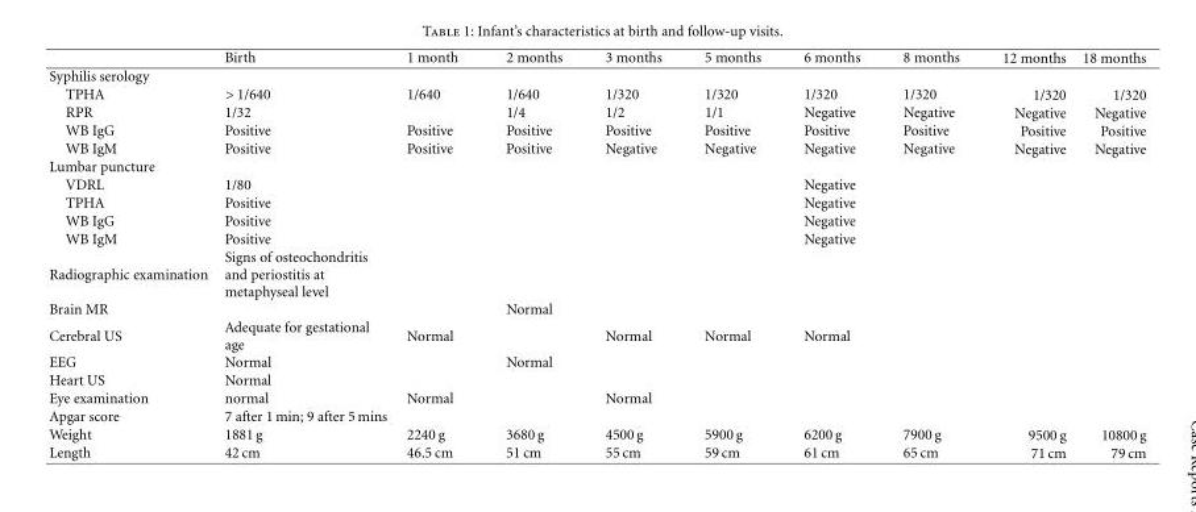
<table><thead><tr><td></td><td>Birth</td><td>1 month</td><td>2 months</td><td>3 months</td><td>5 months</td><td>6 months</td><td>8 months</td><td>12 months</td><td>18 months</td></tr></thead><tbody><tr><td colspan="10">Syphilis serology</td></tr><tr><td>TPHA</td><td>&gt; 1/640</td><td>1/640</td><td>1/640</td><td>1/320</td><td>1/320</td><td>1/320</td><td>1/320</td><td>1/320</td><td>1/320</td></tr><tr><td>RPR</td><td>1/32</td><td></td><td>1/4</td><td>1/2</td><td>1/1</td><td>Negative</td><td>Negative</td><td>Negative</td><td>Negative</td></tr><tr><td>WB IgG</td><td>Positive</td><td>Positive</td><td>Positive</td><td>Positive</td><td>Positive</td><td>Positive</td><td>Positive</td><td>Positive</td><td>Positive</td></tr><tr><td>WB IgM</td><td>Positive</td><td>Positive</td><td>Positive</td><td>Negative</td><td>Negative</td><td>Negative</td><td>Negative</td><td>Negative</td><td>Negative</td></tr><tr><td colspan="10">Lumbar puncture</td></tr><tr><td>VDRL</td><td>1/80</td><td></td><td></td><td></td><td></td><td>Negative</td><td></td><td></td><td></td></tr><tr><td>TPHA</td><td>Positive</td><td></td><td></td><td></td><td></td><td>Negative</td><td></td><td></td><td></td></tr><tr><td>WB IgG</td><td>Positive</td><td></td><td></td><td></td><td></td><td>Negative</td><td></td><td></td><td></td></tr><tr><td>WB IgM</td><td>Positive</td><td></td><td></td><td></td><td></td><td>Negative</td><td></td><td></td><td></td></tr><tr><td>Radiographic examination</td><td>Signs of osteochondritis and periostitis at metaphyseal level</td><td></td><td></td><td></td><td></td><td></td><td></td><td></td><td></td></tr><tr><td>Brain MR</td><td></td><td></td><td>Normal</td><td></td><td></td><td></td><td></td><td></td><td></td></tr><tr><td>Cerebral US</td><td>Adequate for gestational age</td><td>Normal</td><td></td><td>Normal</td><td>Normal</td><td>Normal</td><td></td><td></td><td></td></tr><tr><td>EEG</td><td>Normal</td><td></td><td>Normal</td><td></td><td></td><td></td><td></td><td></td><td></td></tr><tr><td>Heart US</td><td>Normal</td><td></td><td></td><td></td><td></td><td></td><td></td><td></td><td></td></tr><tr><td>Eye examination</td><td>normal</td><td>Normal</td><td></td><td>Normal</td><td></td><td></td><td></td><td></td><td></td></tr><tr><td>Apgar score</td><td>7 after 1 min; 9 after 5 mins</td><td></td><td></td><td></td><td></td><td></td><td></td><td></td><td></td></tr><tr><td>Weight</td><td>1881 g</td><td>2240 g</td><td>3680 g</td><td>4500 g</td><td>5900 g</td><td>6200 g</td><td>7900 g</td><td>9500 g</td><td>10800 g</td></tr><tr><td>Length</td><td>42 cm</td><td>46.5 cm</td><td>51 cm</td><td>55 cm</td><td>59 cm</td><td>61 cm</td><td>65 cm</td><td>71 cm</td><td>79 cm</td></tr></tbody></table>